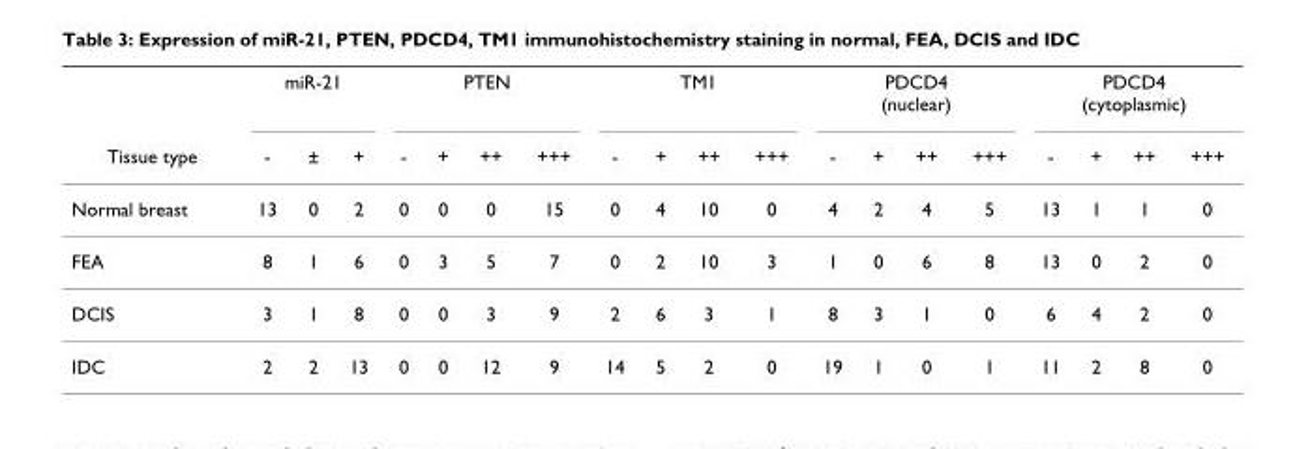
<table><thead><tr><td rowspan="2">Tissue type</td><td colspan="3">miR-21</td><td colspan="4">PTEN</td><td colspan="4">TM1</td><td colspan="4">PDCD4 (nuclear)</td><td colspan="4">PDCD4 (cytoplasmic)</td></tr><tr><td>-</td><td>±</td><td>+</td><td>-</td><td>+</td><td>++</td><td>+++</td><td>-</td><td>+</td><td>++</td><td>+++</td><td>-</td><td>+</td><td>++</td><td>+++</td><td>-</td><td>+</td><td>++</td><td>+++</td></tr></thead><tbody><tr><td>Normal breast</td><td>13</td><td>0</td><td>2</td><td>0</td><td>0</td><td>0</td><td>15</td><td>0</td><td>4</td><td>10</td><td>0</td><td>4</td><td>2</td><td>4</td><td>5</td><td>13</td><td>1</td><td>1</td><td>0</td></tr><tr><td>FEA</td><td>8</td><td>1</td><td>6</td><td>0</td><td>3</td><td>5</td><td>7</td><td>0</td><td>2</td><td>10</td><td>3</td><td>1</td><td>0</td><td>6</td><td>8</td><td>13</td><td>0</td><td>2</td><td>0</td></tr><tr><td>DCIS</td><td>3</td><td>1</td><td>8</td><td>0</td><td>0</td><td>3</td><td>9</td><td>2</td><td>6</td><td>3</td><td>1</td><td>8</td><td>3</td><td>1</td><td>0</td><td>6</td><td>4</td><td>2</td><td>0</td></tr><tr><td>IDC</td><td>2</td><td>2</td><td>13</td><td>0</td><td>0</td><td>12</td><td>9</td><td>14</td><td>5</td><td>2</td><td>0</td><td>19</td><td>1</td><td>0</td><td>1</td><td>11</td><td>2</td><td>8</td><td>0</td></tr></tbody></table>